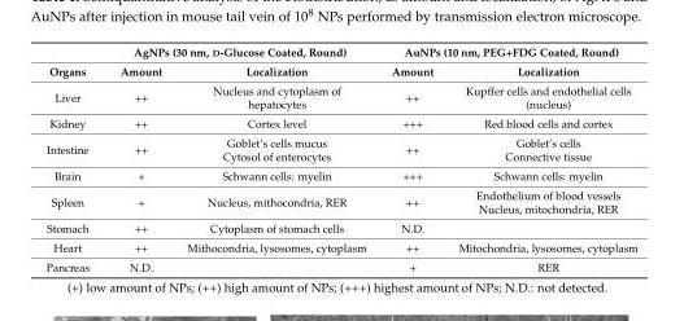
<table><thead><tr><td rowspan="2">Organs</td><td colspan="2">AgNPs (30 nm, D-Glucose Coated, Round)</td><td colspan="2">AuNPs (10 nm, PEG+FDG Coated, Round)</td></tr><tr><td>Amount</td><td>Localization</td><td>Amount</td><td>Localization</td></tr></thead><tbody><tr><td>Liver</td><td>++</td><td>Nucleus and cytoplasm of hepatocytes</td><td>++</td><td>Kupffer cells and endothelial cells (nucleus)</td></tr><tr><td>Kidney</td><td>++</td><td>Cortex level</td><td>+++</td><td>Red blood cells and cortex</td></tr><tr><td>Intestine</td><td>++</td><td>Goblet’s cells mucus Cytosol of enterocytes</td><td>++</td><td>Goblet’s cells Connective tissue</td></tr><tr><td>Brain</td><td>+</td><td>Schwann cells: myelin</td><td>+++</td><td>Schwann cells: myelin</td></tr><tr><td>Spleen</td><td>+</td><td>Nucleus, mithocondria, RER</td><td>++</td><td>Endothelium of blood vessels Nucleus, mitochondria, RER</td></tr><tr><td>Stomach</td><td>++</td><td>Cytoplasm of stomach cells</td><td>N.D.</td><td></td></tr><tr><td>Heart</td><td>++</td><td>Mithocondria, lysosomes, cytoplasm</td><td>++</td><td>Mitochondria, lysosomes, cytoplasm</td></tr><tr><td>Pancreas</td><td>N.D.</td><td></td><td>+</td><td>RER</td></tr></tbody></table>